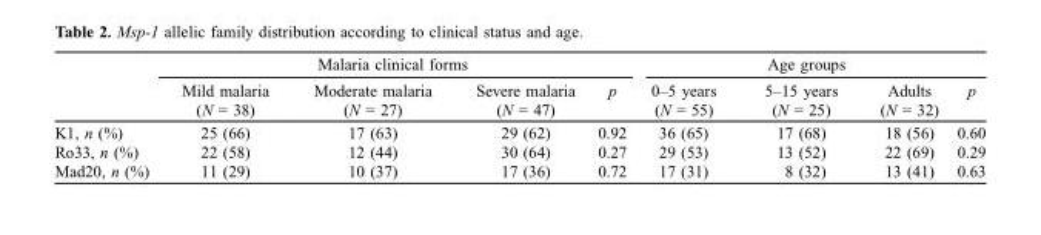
<table><thead><tr><td rowspan="2"></td><td colspan="4">Malaria clinical forms</td><td colspan="4">Age groups</td></tr><tr><td>Mild malaria (N = 38)</td><td>Moderate malaria (N = 27)</td><td>Severe malaria (N = 47)</td><td>p</td><td>0–5 years (N = 55)</td><td>5–15 years (N = 25)</td><td>Adults (N = 32)</td><td>p</td></tr></thead><tbody><tr><td>K1, n (%)</td><td>25 (66)</td><td>17 (63)</td><td>29 (62)</td><td>0.92</td><td>36 (65)</td><td>17 (68)</td><td>18 (56)</td><td>0.60</td></tr><tr><td>Ro33, n (%)</td><td>22 (58)</td><td>12 (44)</td><td>30 (64)</td><td>0.27</td><td>29 (53)</td><td>13 (52)</td><td>22 (69)</td><td>0.29</td></tr><tr><td>Mad20, n (%)</td><td>11 (29)</td><td>10 (37)</td><td>17 (36)</td><td>0.72</td><td>17 (31)</td><td>8 (32)</td><td>13 (41)</td><td>0.63</td></tr></tbody></table>